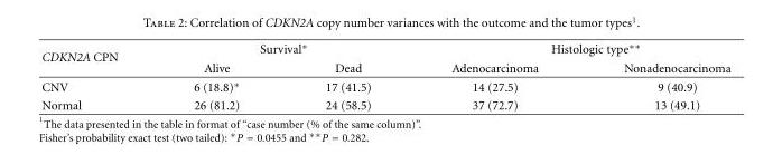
<table><thead><tr><td rowspan="2">CDKN2A CPN</td><td colspan="2">Survival∗</td><td colspan="2">Histologic type∗∗</td></tr><tr><td>Alive</td><td>Dead</td><td>Adenocarcinoma</td><td>Nonadenocarcinoma</td></tr></thead><tbody><tr><td>CNV</td><td>6 (18.8)∗</td><td>17 (41.5)</td><td>14 (27.5)</td><td>9 (40.9)</td></tr><tr><td>Normal</td><td>26 (81.2)</td><td>24 (58.5)</td><td>37 (72.7)</td><td>13 (49.1)</td></tr></tbody></table>